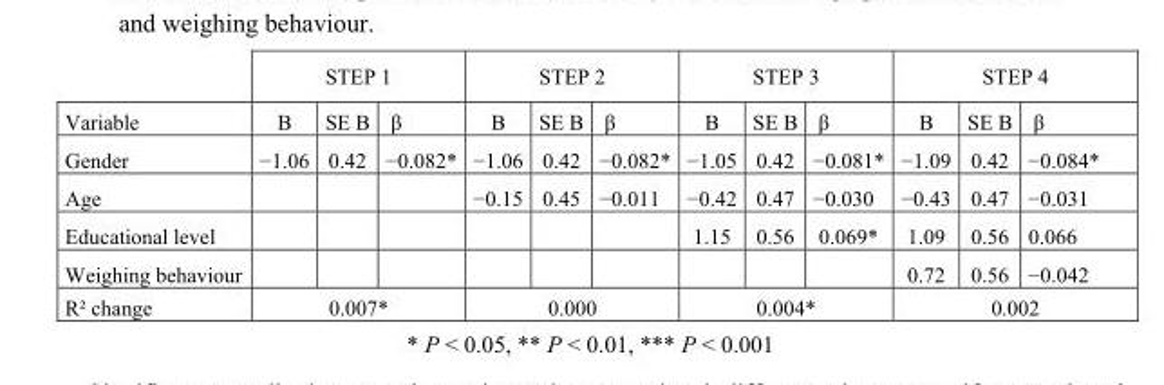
<table><thead><tr><td rowspan="2">Variable</td><td colspan="3">STEP 1</td><td colspan="3">STEP 2</td><td colspan="3">STEP 3</td><td colspan="3">STEP 4</td></tr><tr><td>B</td><td>SE B</td><td>β</td><td>B</td><td>SE B</td><td>β</td><td>B</td><td>SE B</td><td>β</td><td>B</td><td>SE B</td><td>β</td></tr></thead><tbody><tr><td>Gender</td><td>−1.06</td><td>0.42</td><td>−0.082*</td><td>−1.06</td><td>0.42</td><td>−0.082*</td><td>−1.05</td><td>0.42</td><td>−0.081*</td><td>−1.09</td><td>0.42</td><td>−0.084*</td></tr><tr><td>Age</td><td></td><td></td><td></td><td>−0.15</td><td>0.45</td><td>−0.011</td><td>−0.42</td><td>0.47</td><td>−0.030</td><td>−0.43</td><td>0.47</td><td>−0.031</td></tr><tr><td>Educational level</td><td></td><td></td><td></td><td></td><td></td><td></td><td>1.15</td><td>0.56</td><td>0.069*</td><td>1.09</td><td>0.56</td><td>0.066</td></tr><tr><td>Weighing behaviour</td><td></td><td></td><td></td><td></td><td></td><td></td><td></td><td></td><td></td><td>0.72</td><td>0.56</td><td>−0.042</td></tr><tr><td>R² change</td><td colspan="3">0.007*</td><td colspan="3">0.000</td><td colspan="3">0.004*</td><td colspan="3">0.002</td></tr></tbody></table>